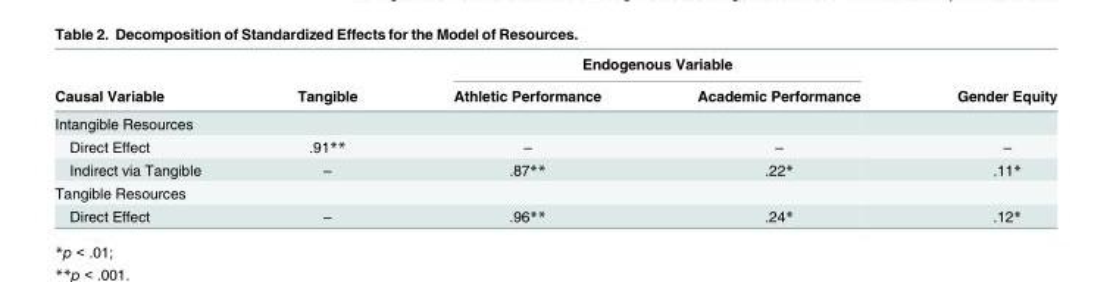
<table><thead><tr><td rowspan="2">Causal Variable</td><td rowspan="2">Tangible</td><td colspan="2">Endogenous Variable</td><td rowspan="2">Gender Equity</td></tr><tr><td>Athletic Performance</td><td>Academic Performance</td></tr></thead><tbody><tr><td colspan="5">Intangible Resources</td></tr><tr><td>Direct Effect</td><td>.91**</td><td>–</td><td>–</td><td>–</td></tr><tr><td>Indirect via Tangible</td><td>–</td><td>.87**</td><td>.22*</td><td>.11*</td></tr><tr><td colspan="5">Tangible Resources</td></tr><tr><td>Direct Effect</td><td>–</td><td>.96**</td><td>.24*</td><td>.12*</td></tr></tbody></table>